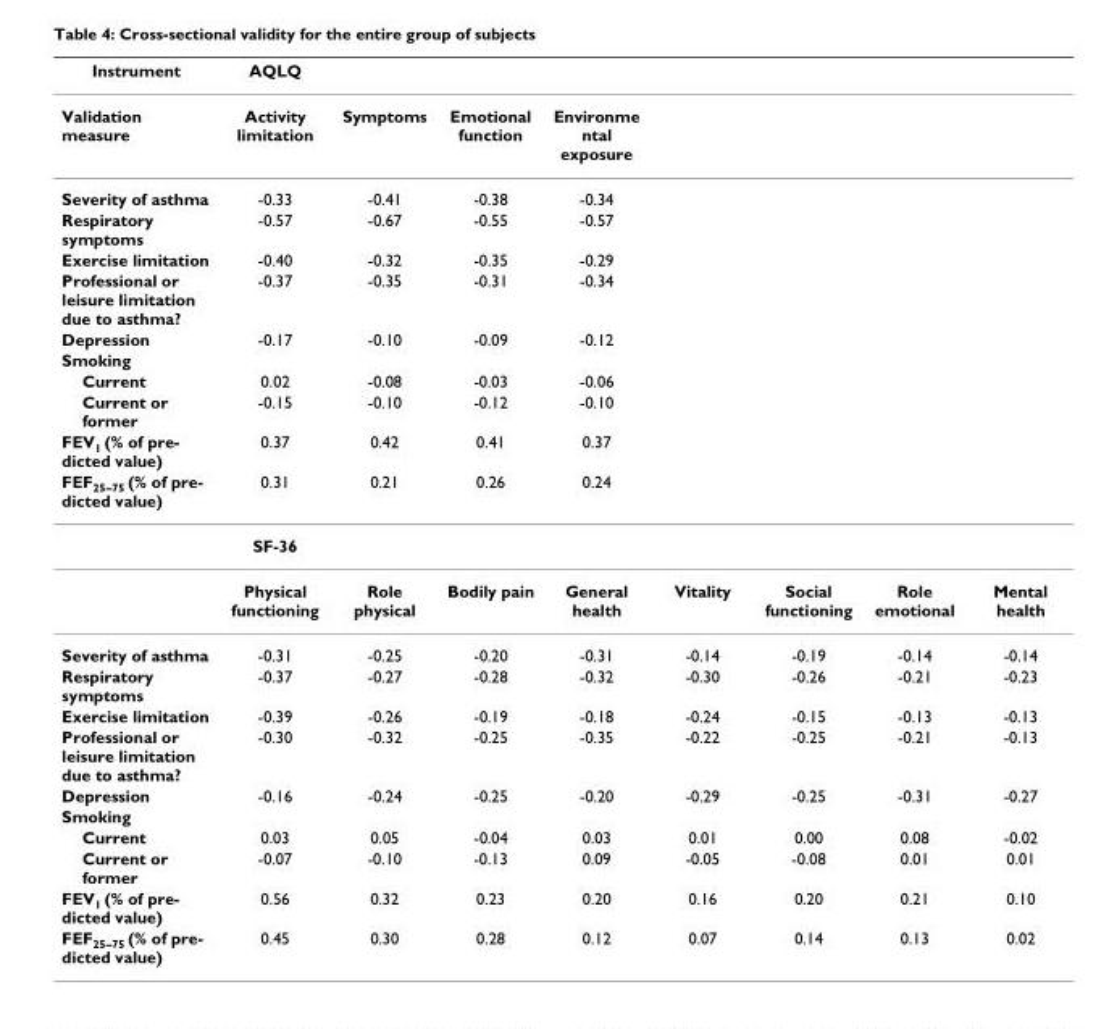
<table><thead><tr><td>Instrument</td><td>AQLQ</td><td></td><td></td><td></td><td></td><td></td><td></td><td></td></tr></thead><tbody><tr><td>Validation measure</td><td>Activity limitation</td><td>Symptoms</td><td>Emotional function</td><td>Environme ntal exposure</td><td></td><td></td><td></td><td></td></tr><tr><td>Severity of asthma</td><td>-0.33</td><td>-0.41</td><td>-0.38</td><td>-0.34</td><td></td><td></td><td></td><td></td></tr><tr><td>Respiratory symptoms</td><td>-0.57</td><td>-0.67</td><td>-0.55</td><td>-0.57</td><td></td><td></td><td></td><td></td></tr><tr><td>Exercise limitation</td><td>-0.40</td><td>-0.32</td><td>-0.35</td><td>-0.29</td><td></td><td></td><td></td><td></td></tr><tr><td>Professional or leisure limitation due to asthma?</td><td>-0.37</td><td>-0.35</td><td>-0.31</td><td>-0.34</td><td></td><td></td><td></td><td></td></tr><tr><td>Depression</td><td>-0.17</td><td>-0.10</td><td>-0.09</td><td>-0.12</td><td></td><td></td><td></td><td></td></tr><tr><td colspan="9">Smoking</td></tr><tr><td>Current</td><td>0.02</td><td>-0.08</td><td>-0.03</td><td>-0.06</td><td colspan="4"></td></tr><tr><td>Current or former</td><td>-0.15</td><td>-0.10</td><td>-0.12</td><td>-0.10</td><td></td><td></td><td></td><td></td></tr><tr><td>FEV1 (% of pre- dicted value)</td><td>0.37</td><td>0.42</td><td>0.41</td><td>0.37</td><td></td><td></td><td></td><td></td></tr><tr><td rowspan="3">FEF25–75 (% of pre- dicted value)</td><td>0.31</td><td>0.21</td><td>0.26</td><td>0.24</td><td></td><td></td><td></td><td></td></tr><tr><td>SF-36</td><td></td><td></td><td></td><td></td><td></td><td></td><td></td></tr><tr><td>Physical functioning</td><td>Role physical</td><td>Bodily pain</td><td>General health</td><td>Vitality</td><td>Social functioning</td><td>Role emotional</td><td>Mental health</td></tr><tr><td>Severity of asthma</td><td>-0.31</td><td>-0.25</td><td>-0.20</td><td>-0.31</td><td>-0.14</td><td>-0.19</td><td>-0.14</td><td>-0.14</td></tr><tr><td>Respiratory symptoms</td><td>-0.37</td><td>-0.27</td><td>-0.28</td><td>-0.32</td><td>-0.30</td><td>-0.26</td><td>-0.21</td><td>-0.23</td></tr><tr><td>Exercise limitation</td><td>-0.39</td><td>-0.26</td><td>-0.19</td><td>-0.18</td><td>-0.24</td><td>-0.15</td><td>-0.13</td><td>-0.13</td></tr><tr><td>Professional or leisure limitation due to asthma?</td><td>-0.30</td><td>-0.32</td><td>-0.25</td><td>-0.35</td><td>-0.22</td><td>-0.25</td><td>-0.21</td><td>-0.13</td></tr><tr><td>Depression</td><td>-0.16</td><td>-0.24</td><td>-0.25</td><td>-0.20</td><td>-0.29</td><td>-0.25</td><td>-0.31</td><td>-0.27</td></tr><tr><td colspan="9">Smoking</td></tr><tr><td>Current</td><td>0.03</td><td>0.05</td><td>-0.04</td><td>0.03</td><td>0.01</td><td>0.00</td><td>0.08</td><td>-0.02</td></tr><tr><td>Current or former</td><td>-0.07</td><td>-0.10</td><td>-0.13</td><td>0.09</td><td>-0.05</td><td>-0.08</td><td>0.01</td><td>0.01</td></tr><tr><td>FEV1 (% of pre- dicted value)</td><td>0.56</td><td>0.32</td><td>0.23</td><td>0.20</td><td>0.16</td><td>0.20</td><td>0.21</td><td>0.10</td></tr><tr><td>FEF25–75 (% of pre- dicted value)</td><td>0.45</td><td>0.30</td><td>0.28</td><td>0.12</td><td>0.07</td><td>0.14</td><td>0.13</td><td>0.02</td></tr></tbody></table>